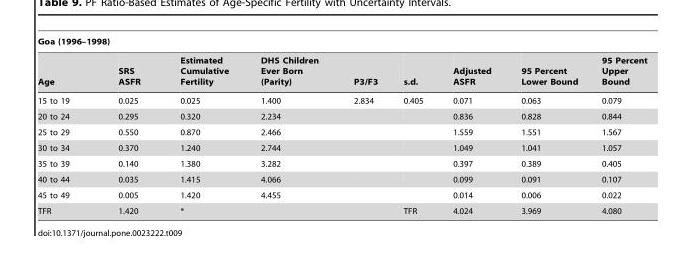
<table><thead><tr><td colspan="9">Goa (1996–1998)</td></tr><tr><td>Age</td><td>SRS ASFR</td><td>Estimated Cumulative Fertility</td><td>DHS Children Ever Born (Parity)</td><td>P3/F3</td><td>s.d.</td><td>Adjusted ASFR</td><td>95 Percent Lower Bound</td><td>95 Percent Upper Bound</td></tr></thead><tbody><tr><td>15 to 19</td><td>0.025</td><td>0.025</td><td>1.400</td><td>2.834</td><td>0.405</td><td>0.071</td><td>0.063</td><td>0.079</td></tr><tr><td>20 to 24</td><td>0.295</td><td>0.320</td><td>2.234</td><td></td><td></td><td>0.836</td><td>0.828</td><td>0.844</td></tr><tr><td>25 to 29</td><td>0.550</td><td>0.870</td><td>2.466</td><td></td><td></td><td>1.559</td><td>1.551</td><td>1.567</td></tr><tr><td>30 to 34</td><td>0.370</td><td>1.240</td><td>2.744</td><td></td><td></td><td>1.049</td><td>1.041</td><td>1.057</td></tr><tr><td>35 to 39</td><td>0.140</td><td>1.380</td><td>3.282</td><td></td><td></td><td>0.397</td><td>0.389</td><td>0.405</td></tr><tr><td>40 to 44</td><td>0.035</td><td>1.415</td><td>4.066</td><td></td><td></td><td>0.099</td><td>0.091</td><td>0.107</td></tr><tr><td>45 to 49</td><td>0.005</td><td>1.420</td><td>4.455</td><td></td><td></td><td>0.014</td><td>0.006</td><td>0.022</td></tr><tr><td>TFR</td><td>1.420</td><td>*</td><td></td><td></td><td>TFR</td><td>4.024</td><td>3.969</td><td>4.080</td></tr></tbody></table>